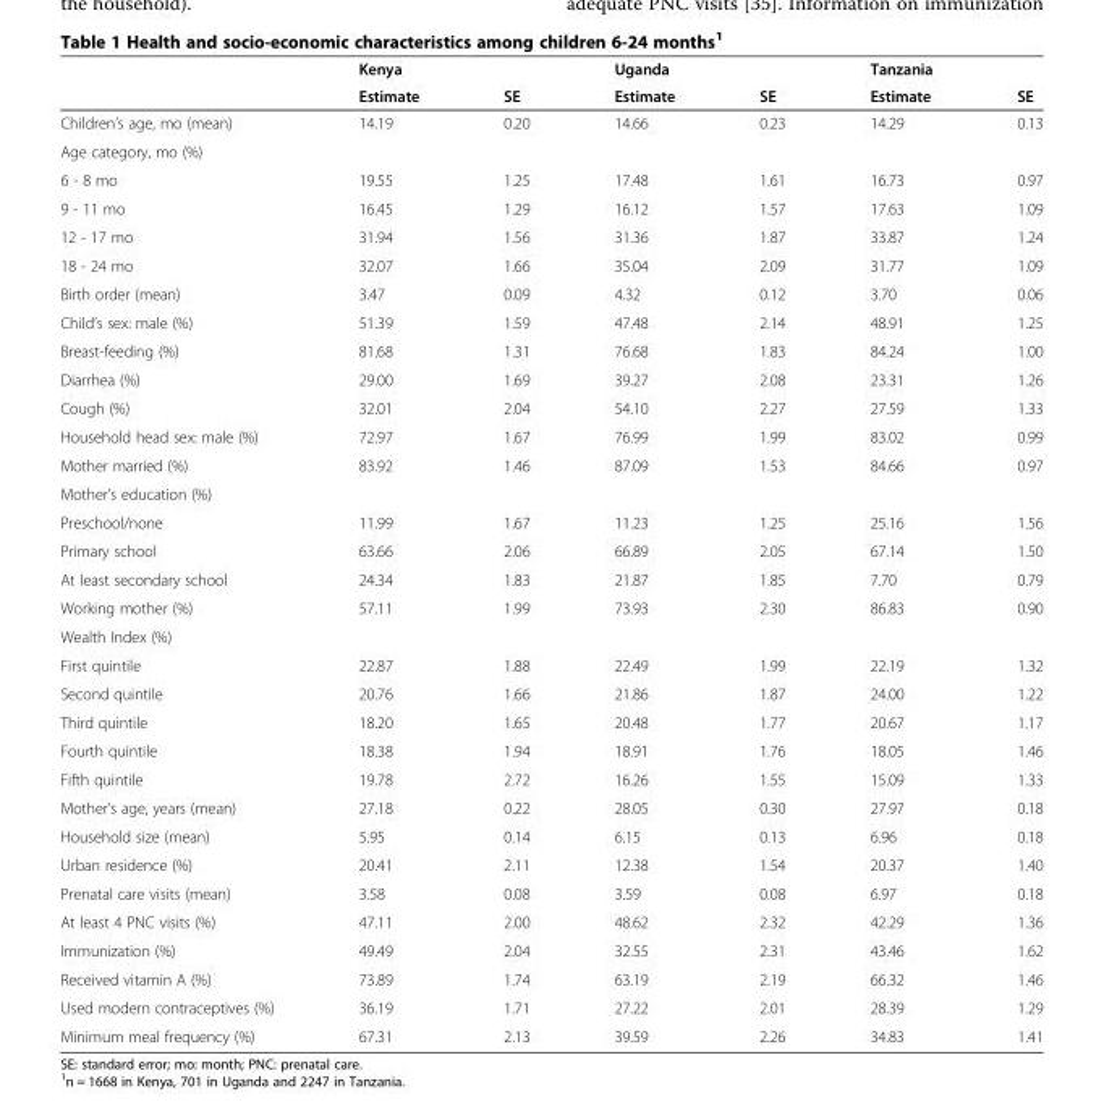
<table><thead><tr><td rowspan="2"></td><td rowspan="2">Kenya Estimate</td><td rowspan="2">SE</td><td rowspan="2">Uganda Estimate</td><td rowspan="2">SE</td><td rowspan="2">Tanzania Estimate</td><td rowspan="2">SE</td></tr><tr></tr></thead><tbody><tr><td>Children’s age, mo (mean)</td><td>14.19</td><td>0.20</td><td>14.66</td><td>0.23</td><td>14.29</td><td>0.13</td></tr><tr><td colspan="7">Age category, mo (%)</td></tr><tr><td>6 - 8 mo</td><td>19.55</td><td>1.25</td><td>17.48</td><td>1.61</td><td>16.73</td><td>0.97</td></tr><tr><td>9 - 11 mo</td><td>16.45</td><td>1.29</td><td>16.12</td><td>1.57</td><td>17.63</td><td>1.09</td></tr><tr><td>12 - 17 mo</td><td>31.94</td><td>1.56</td><td>31.36</td><td>1.87</td><td>33.87</td><td>1.24</td></tr><tr><td>18 - 24 mo</td><td>32.07</td><td>1.66</td><td>35.04</td><td>2.09</td><td>31.77</td><td>1.09</td></tr><tr><td>Birth order (mean)</td><td>3.47</td><td>0.09</td><td>4.32</td><td>0.12</td><td>3.70</td><td>0.06</td></tr><tr><td>Child’s sex: male (%)</td><td>51.39</td><td>1.59</td><td>47.48</td><td>2.14</td><td>48.91</td><td>1.25</td></tr><tr><td>Breast-feeding (%)</td><td>81.68</td><td>1.31</td><td>76.68</td><td>1.83</td><td>84.24</td><td>1.00</td></tr><tr><td>Diarrhea (%)</td><td>29.00</td><td>1.69</td><td>39.27</td><td>2.08</td><td>23.31</td><td>1.26</td></tr><tr><td>Cough (%)</td><td>32.01</td><td>2.04</td><td>54.10</td><td>2.27</td><td>27.59</td><td>1.33</td></tr><tr><td>Household head sex: male (%)</td><td>72.97</td><td>1.67</td><td>76.99</td><td>1.99</td><td>83.02</td><td>0.99</td></tr><tr><td>Mother married (%)</td><td>83.92</td><td>1.46</td><td>87.09</td><td>1.53</td><td>84.66</td><td>0.97</td></tr><tr><td colspan="7">Mother’s education (%)</td></tr><tr><td>Preschool/none</td><td>11.99</td><td>1.67</td><td>11.23</td><td>1.25</td><td>25.16</td><td>1.56</td></tr><tr><td>Primary school</td><td>63.66</td><td>2.06</td><td>66.89</td><td>2.05</td><td>67.14</td><td>1.50</td></tr><tr><td>At least secondary school</td><td>24.34</td><td>1.83</td><td>21.87</td><td>1.85</td><td>7.70</td><td>0.79</td></tr><tr><td>Working mother (%)</td><td>57.11</td><td>1.99</td><td>73.93</td><td>2.30</td><td>86.83</td><td>0.90</td></tr><tr><td colspan="7">Wealth Index (%)</td></tr><tr><td>First quintile</td><td>22.87</td><td>1.88</td><td>22.49</td><td>1.99</td><td>22.19</td><td>1.32</td></tr><tr><td>Second quintile</td><td>20.76</td><td>1.66</td><td>21.86</td><td>1.87</td><td>24.00</td><td>1.22</td></tr><tr><td>Third quintile</td><td>18.20</td><td>1.65</td><td>20.48</td><td>1.77</td><td>20.67</td><td>1.17</td></tr><tr><td>Fourth quintile</td><td>18.38</td><td>1.94</td><td>18.91</td><td>1.76</td><td>18.05</td><td>1.46</td></tr><tr><td>Fifth quintile</td><td>19.78</td><td>2.72</td><td>16.26</td><td>1.55</td><td>15.09</td><td>1.33</td></tr><tr><td>Mother’s age, years (mean)</td><td>27.18</td><td>0.22</td><td>28.05</td><td>0.30</td><td>27.97</td><td>0.18</td></tr><tr><td>Household size (mean)</td><td>5.95</td><td>0.14</td><td>6.15</td><td>0.13</td><td>6.96</td><td>0.18</td></tr><tr><td>Urban residence (%)</td><td>20.41</td><td>2.11</td><td>12.38</td><td>1.54</td><td>20.37</td><td>1.40</td></tr><tr><td>Prenatal care visits (mean)</td><td>3.58</td><td>0.08</td><td>3.59</td><td>0.08</td><td>6.97</td><td>0.18</td></tr><tr><td>At least 4 PNC visits (%)</td><td>47.11</td><td>2.00</td><td>48.62</td><td>2.32</td><td>42.29</td><td>1.36</td></tr><tr><td>Immunization (%)</td><td>49.49</td><td>2.04</td><td>32.55</td><td>2.31</td><td>43.46</td><td>1.62</td></tr><tr><td>Received vitamin A (%)</td><td>73.89</td><td>1.74</td><td>63.19</td><td>2.19</td><td>66.32</td><td>1.46</td></tr><tr><td>Used modern contraceptives (%)</td><td>36.19</td><td>1.71</td><td>27.22</td><td>2.01</td><td>28.39</td><td>1.29</td></tr><tr><td>Minimum meal frequency (%)</td><td>67.31</td><td>2.13</td><td>39.59</td><td>2.26</td><td>34.83</td><td>1.41</td></tr></tbody></table>